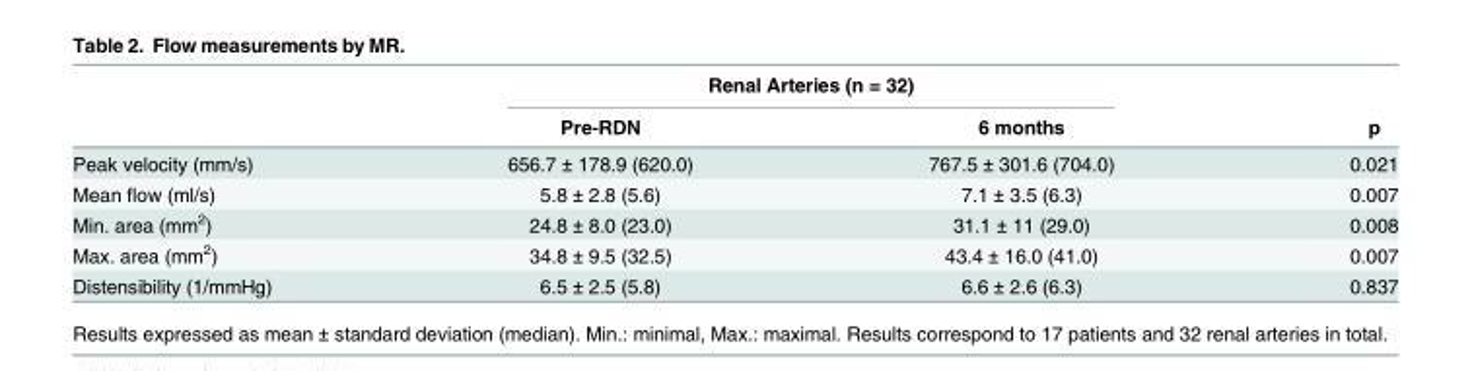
<table><thead><tr><td rowspan="2"></td><td colspan="2">Renal Arteries (n = 32)</td><td rowspan="2">p</td></tr><tr><td>Pre-RDN</td><td>6 months</td></tr></thead><tbody><tr><td>Peak velocity (mm/s)</td><td>656.7 ± 178.9 (620.0)</td><td>767.5 ± 301.6 (704.0)</td><td>0.021</td></tr><tr><td>Mean flow (ml/s)</td><td>5.8 ± 2.8 (5.6)</td><td>7.1 ± 3.5 (6.3)</td><td>0.007</td></tr><tr><td>Min. area (mm<sup>2</sup>)</td><td>24.8 ± 8.0 (23.0)</td><td>31.1 ± 11 (29.0)</td><td>0.008</td></tr><tr><td>Max. area (mm<sup>2</sup>)</td><td>34.8 ± 9.5 (32.5)</td><td>43.4 ± 16.0 (41.0)</td><td>0.007</td></tr><tr><td>Distensibility (1/mmHg)</td><td>6.5 ± 2.5 (5.8)</td><td>6.6 ± 2.6 (6.3)</td><td>0.837</td></tr></tbody></table>